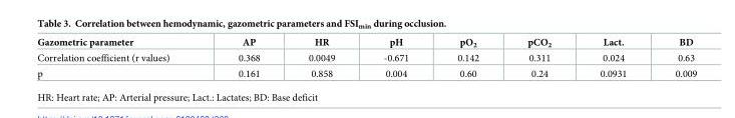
<table><thead><tr><td>Gazometric parameter</td><td>AP</td><td>HR</td><td>pH</td><td>pO<sub>2</sub></td><td>pCO<sub>2</sub></td><td>Lact.</td><td>BD</td></tr></thead><tbody><tr><td>Correlation coefficient (r values)</td><td>0.368</td><td>0.0049</td><td>-0.671</td><td>0.142</td><td>0.311</td><td>0.024</td><td>0.63</td></tr><tr><td>p</td><td>0.161</td><td>0.858</td><td>0.004</td><td>0.60</td><td>0.24</td><td>0.0931</td><td>0.009</td></tr></tbody></table>